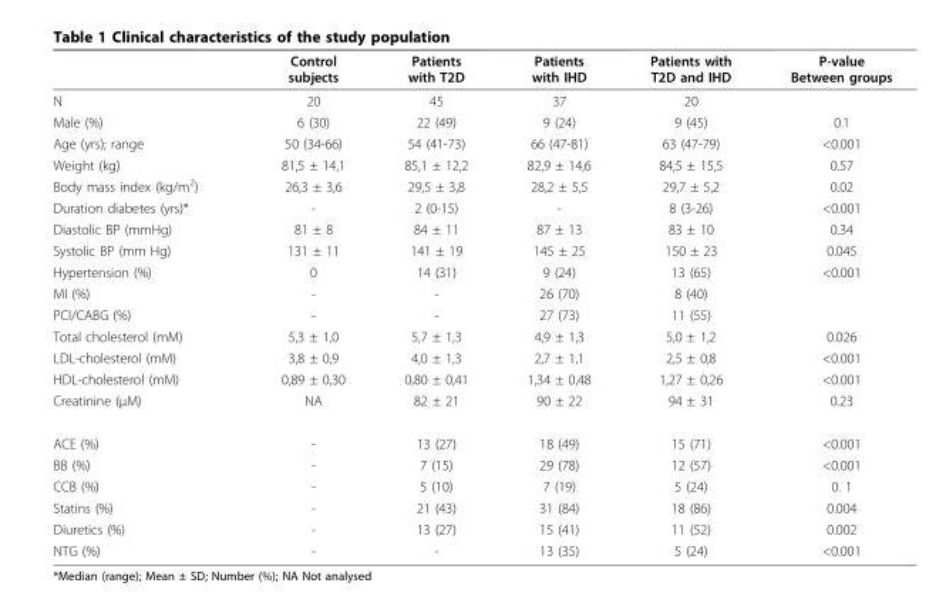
<table><thead><tr><td></td><td>Control subjects</td><td>Patients with T2D</td><td>Patients with IHD</td><td>Patients with T2D and IHD</td><td>P-value Between groups</td></tr></thead><tbody><tr><td>N</td><td>20</td><td>45</td><td>37</td><td>20</td><td></td></tr><tr><td>Male (%)</td><td>6 (30)</td><td>22 (49)</td><td>9 (24)</td><td>9 (45)</td><td>0.1</td></tr><tr><td>Age (yrs); range</td><td>50 (34-66)</td><td>54 (41-73)</td><td>66 (47-81)</td><td>63 (47-79)</td><td>&lt;0.001</td></tr><tr><td>Weight (kg)</td><td>81,5 ± 14,1</td><td>85,1 ± 12,2</td><td>82,9 ± 14,6</td><td>84,5 ± 15,5</td><td>0.57</td></tr><tr><td>Body mass index (kg/m<sup>2</sup>)</td><td>26,3 ± 3,6</td><td>29,5 ± 3,8</td><td>28,2 ± 5,5</td><td>29,7 ± 5,2</td><td>0.02</td></tr><tr><td>Duration diabetes (yrs)*</td><td>-</td><td>2 (0-15)</td><td>-</td><td>8 (3-26)</td><td>&lt;0.001</td></tr><tr><td>Diastolic BP (mmHg)</td><td>81 ± 8</td><td>84 ± 11</td><td>87 ± 13</td><td>83 ± 10</td><td>0.34</td></tr><tr><td>Systolic BP (mm Hg)</td><td>131 ± 11</td><td>141 ± 19</td><td>145 ± 25</td><td>150 ± 23</td><td>0.045</td></tr><tr><td>Hypertension (%)</td><td>0</td><td>14 (31)</td><td>9 (24)</td><td>13 (65)</td><td>&lt;0.001</td></tr><tr><td>MI (%)</td><td>-</td><td>-</td><td>26 (70)</td><td>8 (40)</td><td></td></tr><tr><td>PCI/CABG (%)</td><td>-</td><td>-</td><td>27 (73)</td><td>11 (55)</td><td></td></tr><tr><td>Total cholesterol (mM)</td><td>5,3 ± 1,0</td><td>5,7 ± 1,3</td><td>4,9 ± 1,3</td><td>5,0 ± 1,2</td><td>0.026</td></tr><tr><td>LDL-cholesterol (mM)</td><td>3,8 ± 0,9</td><td>4,0 ± 1,3</td><td>2,7 ± 1,1</td><td>2,5 ± 0,8</td><td>&lt;0.001</td></tr><tr><td>HDL-cholesterol (mM)</td><td>0,89 ± 0,30</td><td>0,80 ± 0,41</td><td>1,34 ± 0,48</td><td>1,27 ± 0,26</td><td>&lt;0.001</td></tr><tr><td>Creatinine (μM)</td><td>NA</td><td>82 ± 21</td><td>90 ± 22</td><td>94 ± 31</td><td>0.23</td></tr><tr><td>ACE (%)</td><td>-</td><td>13 (27)</td><td>18 (49)</td><td>15 (71)</td><td>&lt;0.001</td></tr><tr><td>BB (%)</td><td>-</td><td>7 (15)</td><td>29 (78)</td><td>12 (57)</td><td>&lt;0.001</td></tr><tr><td>CCB (%)</td><td>-</td><td>5 (10)</td><td>7 (19)</td><td>5 (24)</td><td>0. 1</td></tr><tr><td>Statins (%)</td><td>-</td><td>21 (43)</td><td>31 (84)</td><td>18 (86)</td><td>0.004</td></tr><tr><td>Diuretics (%)</td><td>-</td><td>13 (27)</td><td>15 (41)</td><td>11 (52)</td><td>0.002</td></tr><tr><td>NTG (%)</td><td>-</td><td>-</td><td>13 (35)</td><td>5 (24)</td><td>&lt;0.001</td></tr></tbody></table>